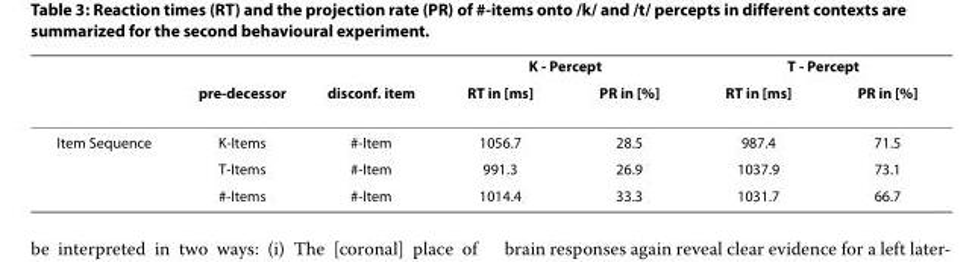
<table><thead><tr><td rowspan="2"></td><td rowspan="2">pre-decessor</td><td rowspan="2">disconf. item</td><td colspan="2">K - Percept</td><td colspan="2">T - Percept</td></tr><tr><td>RT in [ms]</td><td>PR in [%]</td><td>RT in [ms]</td><td>PR in [%]</td></tr></thead><tbody><tr><td rowspan="3">Item Sequence</td><td>K-Items</td><td>#-Item</td><td>1056.7</td><td>28.5</td><td>987.4</td><td>71.5</td></tr><tr><td>T-Items</td><td>#-Item</td><td>991.3</td><td>26.9</td><td>1037.9</td><td>73.1</td></tr><tr><td>#-Items</td><td>#-Item</td><td>1014.4</td><td>33.3</td><td>1031.7</td><td>66.7</td></tr></tbody></table>